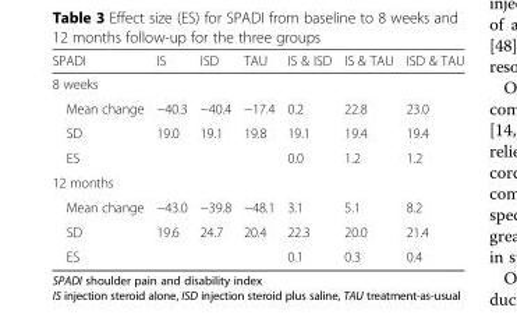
<table><thead><tr><td>SPADI</td><td>IS</td><td>ISD</td><td>TAU</td><td>IS &amp; ISD</td><td>IS &amp; TAU</td><td>ISD &amp; TAU</td></tr></thead><tbody><tr><td colspan="7">8 weeks</td></tr><tr><td>Mean change</td><td>−40.3</td><td>−40.4</td><td>−17.4</td><td>0.2</td><td>22.8</td><td>23.0</td></tr><tr><td>SD</td><td>19.0</td><td>19.1</td><td>19.8</td><td>19.1</td><td>19.4</td><td>19.4</td></tr><tr><td>ES</td><td></td><td></td><td></td><td>0.0</td><td>1.2</td><td>1.2</td></tr><tr><td colspan="7">12 months</td></tr><tr><td>Mean change</td><td>−43.0</td><td>−39.8</td><td>−48.1</td><td>3.1</td><td>5.1</td><td>8.2</td></tr><tr><td>SD</td><td>19.6</td><td>24.7</td><td>20.4</td><td>22.3</td><td>20.0</td><td>21.4</td></tr><tr><td>ES</td><td></td><td></td><td></td><td>0.1</td><td>0.3</td><td>0.4</td></tr></tbody></table>